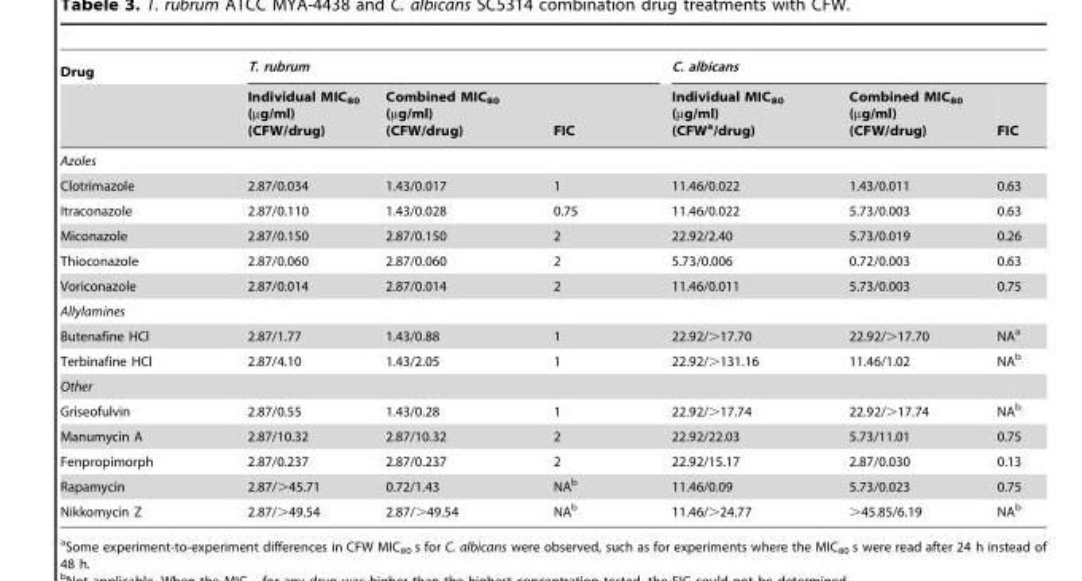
<table><thead><tr><td rowspan="2">Drug</td><td colspan="3">T. rubrum</td><td colspan="3">C. albicans</td></tr><tr><td>Individual MIC<sub>80</sub> (µg/ml) (CFW/drug)</td><td>Combined MIC<sub>80</sub> (µg/ml) (CFW/drug)</td><td>FIC</td><td>Individual MIC<sub>80</sub> (µg/ml) (CFW<sup>a</sup>/drug)</td><td>Combined MIC<sub>80</sub> (µg/ml) (CFW/drug)</td><td>FIC</td></tr></thead><tbody><tr><td colspan="7">Azoles</td></tr><tr><td>Clotrimazole</td><td>2.87/0.034</td><td>1.43/0.017</td><td>1</td><td>11.46/0.022</td><td>1.43/0.011</td><td>0.63</td></tr><tr><td>Itraconazole</td><td>2.87/0.110</td><td>1.43/0.028</td><td>0.75</td><td>11.46/0.022</td><td>5.73/0.003</td><td>0.63</td></tr><tr><td>Miconazole</td><td>2.87/0.150</td><td>2.87/0.150</td><td>2</td><td>22.92/2.40</td><td>5.73/0.019</td><td>0.26</td></tr><tr><td>Thioconazole</td><td>2.87/0.060</td><td>2.87/0.060</td><td>2</td><td>5.73/0.006</td><td>0.72/0.003</td><td>0.63</td></tr><tr><td>Voriconazole</td><td>2.87/0.014</td><td>2.87/0.014</td><td>2</td><td>11.46/0.011</td><td>5.73/0.003</td><td>0.75</td></tr><tr><td colspan="7">Allylamines</td></tr><tr><td>Butenafine HCl</td><td>2.87/1.77</td><td>1.43/0.88</td><td>1</td><td>22.92/&gt;17.70</td><td>22.92/&gt;17.70</td><td>NA<sup>a</sup></td></tr><tr><td>Terbinafine HCl</td><td>2.87/4.10</td><td>1.43/2.05</td><td>1</td><td>22.92/&gt;131.16</td><td>11.46/1.02</td><td>NA<sup>b</sup></td></tr><tr><td colspan="7">Other</td></tr><tr><td>Griseofulvin</td><td>2.87/0.55</td><td>1.43/0.28</td><td>1</td><td>22.92/&gt;17.74</td><td>22.92/&gt;17.74</td><td>NA<sup>b</sup></td></tr><tr><td>Manumycin A</td><td>2.87/10.32</td><td>2.87/10.32</td><td>2</td><td>22.92/22.03</td><td>5.73/11.01</td><td>0.75</td></tr><tr><td>Fenpropimorph</td><td>2.87/0.237</td><td>2.87/0.237</td><td>2</td><td>22.92/15.17</td><td>2.87/0.030</td><td>0.13</td></tr><tr><td>Rapamycin</td><td>2.87/&gt;45.71</td><td>0.72/1.43</td><td>NA<sup>b</sup></td><td>11.46/0.09</td><td>5.73/0.023</td><td>0.75</td></tr><tr><td>Nikkomycin Z</td><td>2.87/&gt;49.54</td><td>2.87/&gt;49.54</td><td>NA<sup>b</sup></td><td>11.46/&gt;24.77</td><td>&gt;45.85/6.19</td><td>NA<sup>b</sup></td></tr></tbody></table>